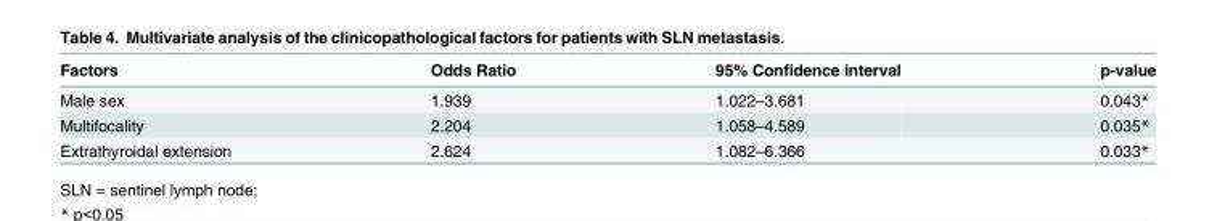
<table><thead><tr><td>Factors</td><td>Odds Ratio</td><td>95% Confidence interval</td><td>p-value</td></tr></thead><tbody><tr><td>Male sex</td><td>1.939</td><td>1.022–3.681</td><td>0.043*</td></tr><tr><td>Multifocality</td><td>2.204</td><td>1.058–4.589</td><td>0.035*</td></tr><tr><td>Extrathyroidal extension</td><td>2.624</td><td>1.082–6.366</td><td>0.033*</td></tr></tbody></table>